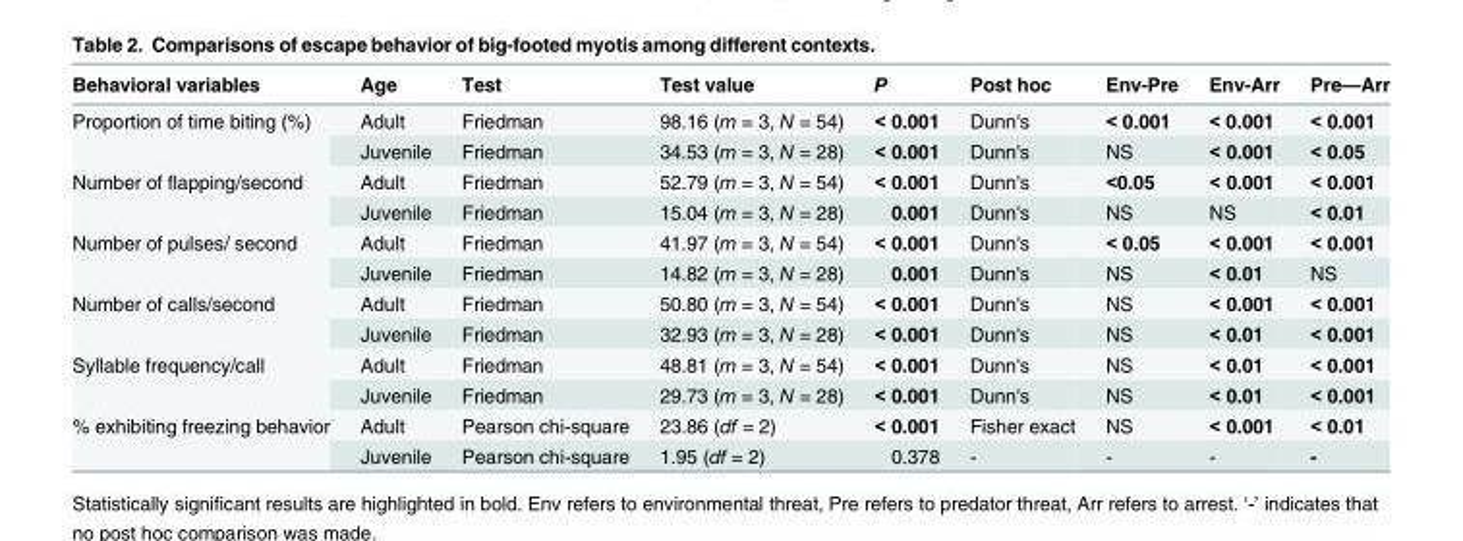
<table><thead><tr><td>Behavioral variables</td><td>Age</td><td>Test</td><td>Test value</td><td>P</td><td>Post hoc</td><td>Env-Pre</td><td>Env-Arr</td><td>Pre—Arr</td></tr></thead><tbody><tr><td rowspan="2">Proportion of time biting (%)</td><td>Adult</td><td>Friedman</td><td>98.16 (m = 3, N = 54)</td><td>&lt; 0.001</td><td>Dunn&#x27;s</td><td>&lt; 0.001</td><td>&lt; 0.001</td><td>&lt; 0.001</td></tr><tr><td>Juvenile</td><td>Friedman</td><td>34.53 (m = 3, N = 28)</td><td>&lt; 0.001</td><td>Dunn&#x27;s</td><td>NS</td><td>&lt; 0.001</td><td>&lt; 0.05</td></tr><tr><td rowspan="2">Number of flapping/second</td><td>Adult</td><td>Friedman</td><td>52.79 (m = 3, N = 54)</td><td>&lt; 0.001</td><td>Dunn&#x27;s</td><td>&lt;0.05</td><td>&lt; 0.001</td><td>&lt; 0.001</td></tr><tr><td>Juvenile</td><td>Friedman</td><td>15.04 (m = 3, N = 28)</td><td>0.001</td><td>Dunn&#x27;s</td><td>NS</td><td>NS</td><td>&lt; 0.01</td></tr><tr><td rowspan="2">Number of pulses/ second</td><td>Adult</td><td>Friedman</td><td>41.97 (m = 3, N = 54)</td><td>&lt; 0.001</td><td>Dunn&#x27;s</td><td>&lt; 0.05</td><td>&lt; 0.001</td><td>&lt; 0.001</td></tr><tr><td>Juvenile</td><td>Friedman</td><td>14.82 (m = 3, N = 28)</td><td>0.001</td><td>Dunn&#x27;s</td><td>NS</td><td>&lt; 0.01</td><td>NS</td></tr><tr><td rowspan="2">Number of calls/second</td><td>Adult</td><td>Friedman</td><td>50.80 (m = 3, N = 54)</td><td>&lt; 0.001</td><td>Dunn&#x27;s</td><td>NS</td><td>&lt; 0.001</td><td>&lt; 0.001</td></tr><tr><td>Juvenile</td><td>Friedman</td><td>32.93 (m = 3, N = 28)</td><td>&lt; 0.001</td><td>Dunn&#x27;s</td><td>NS</td><td>&lt; 0.01</td><td>&lt; 0.001</td></tr><tr><td rowspan="2">Syllable frequency/call</td><td>Adult</td><td>Friedman</td><td>48.81 (m = 3, N = 54)</td><td>&lt; 0.001</td><td>Dunn&#x27;s</td><td>NS</td><td>&lt; 0.01</td><td>&lt; 0.001</td></tr><tr><td>Juvenile</td><td>Friedman</td><td>29.73 (m = 3, N = 28)</td><td>&lt; 0.001</td><td>Dunn&#x27;s</td><td>NS</td><td>&lt; 0.01</td><td>&lt; 0.001</td></tr><tr><td rowspan="2">% exhibiting freezing behavior</td><td>Adult</td><td>Pearson chi-square</td><td>23.86 (df = 2)</td><td>&lt; 0.001</td><td>Fisher exact</td><td>NS</td><td>&lt; 0.001</td><td>&lt; 0.01</td></tr><tr><td>Juvenile</td><td>Pearson chi-square</td><td>1.95 (df = 2)</td><td>0.378</td><td>-</td><td>-</td><td>-</td><td>-</td></tr></tbody></table>